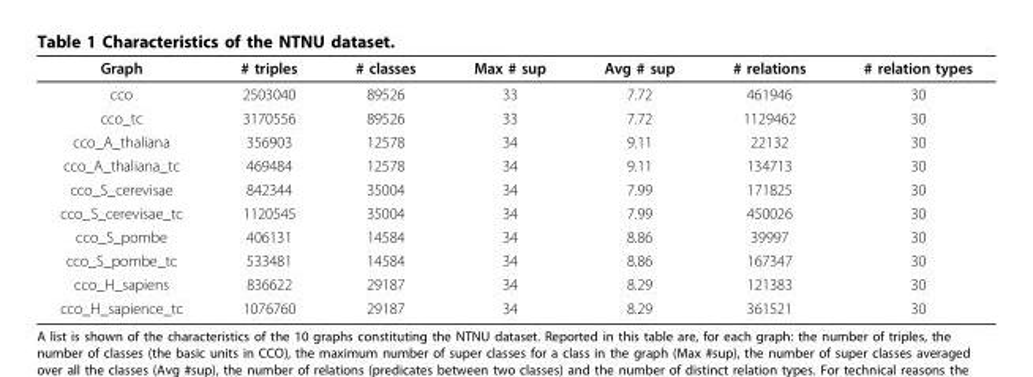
<table><thead><tr><td>Graph</td><td># triples</td><td># classes</td><td>Max # sup</td><td>Avg # sup</td><td># relations</td><td># relation types</td></tr></thead><tbody><tr><td>cco</td><td>2503040</td><td>89526</td><td>33</td><td>7.72</td><td>461946</td><td>30</td></tr><tr><td>cco_tc</td><td>3170556</td><td>89526</td><td>33</td><td>7.72</td><td>1129462</td><td>30</td></tr><tr><td>cco_A_thaliana</td><td>356903</td><td>12578</td><td>34</td><td>9.11</td><td>22132</td><td>30</td></tr><tr><td>cco_A_thaliana_tc</td><td>469484</td><td>12578</td><td>34</td><td>9.11</td><td>134713</td><td>30</td></tr><tr><td>cco_S_cerevisae</td><td>842344</td><td>35004</td><td>34</td><td>7.99</td><td>171825</td><td>30</td></tr><tr><td>cco_S_cerevisae_tc</td><td>1120545</td><td>35004</td><td>34</td><td>7.99</td><td>450026</td><td>30</td></tr><tr><td>cco_S_pombe</td><td>406131</td><td>14584</td><td>34</td><td>8.86</td><td>39997</td><td>30</td></tr><tr><td>cco_S_pombe_tc</td><td>533481</td><td>14584</td><td>34</td><td>8.86</td><td>167347</td><td>30</td></tr><tr><td>cco_H_sapiens</td><td>836622</td><td>29187</td><td>34</td><td>8.29</td><td>121383</td><td>30</td></tr><tr><td>cco_H_sapience_tc</td><td>1076760</td><td>29187</td><td>34</td><td>8.29</td><td>361521</td><td>30</td></tr></tbody></table>